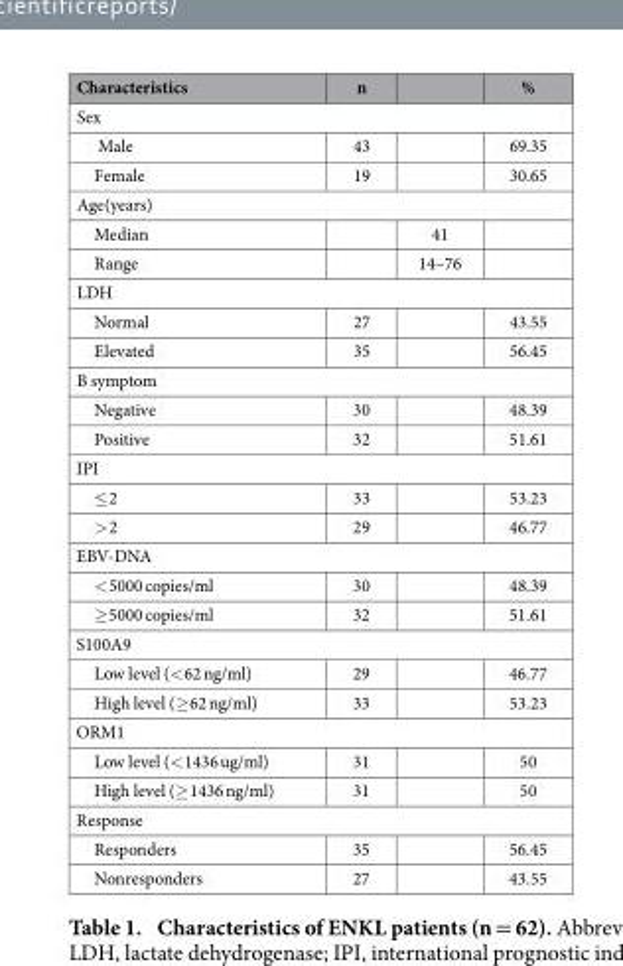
<table><thead><tr><td>Characteristics</td><td>n</td><td></td><td>%</td></tr></thead><tbody><tr><td colspan="4">Sex</td></tr><tr><td>Male</td><td>43</td><td></td><td>69.35</td></tr><tr><td>Female</td><td>19</td><td></td><td>30.65</td></tr><tr><td colspan="4">Age(years)</td></tr><tr><td>Median</td><td></td><td>41</td><td></td></tr><tr><td>Range</td><td></td><td>14–76</td><td></td></tr><tr><td colspan="4">LDH</td></tr><tr><td>Normal</td><td>27</td><td></td><td>43.55</td></tr><tr><td>Elevated</td><td>35</td><td></td><td>56.45</td></tr><tr><td colspan="4">B symptom</td></tr><tr><td>Negative</td><td>30</td><td></td><td>48.39</td></tr><tr><td>Positive</td><td>32</td><td></td><td>51.61</td></tr><tr><td colspan="4">IPI</td></tr><tr><td>≤ 2</td><td>33</td><td></td><td>53.23</td></tr><tr><td>&gt; 2</td><td>29</td><td></td><td>46.77</td></tr><tr><td colspan="4">EBV-DNA</td></tr><tr><td>&lt; 5000 copies/ml</td><td>30</td><td></td><td>48.39</td></tr><tr><td>≥ 5000 copies/ml</td><td>32</td><td></td><td>51.61</td></tr><tr><td colspan="4">S100A9</td></tr><tr><td>Low level (&lt; 62 ng/ml)</td><td>29</td><td></td><td>46.77</td></tr><tr><td>High level (≥ 62 ng/ml)</td><td>33</td><td></td><td>53.23</td></tr><tr><td colspan="4">ORM1</td></tr><tr><td>Low level (&lt; 1436 ug/ml)</td><td>31</td><td></td><td>50</td></tr><tr><td>High level (≥ 1436 ng/ml)</td><td>31</td><td></td><td>50</td></tr><tr><td colspan="4">Response</td></tr><tr><td>Responders</td><td>35</td><td></td><td>56.45</td></tr><tr><td>Nonresponders</td><td>27</td><td></td><td>43.55</td></tr></tbody></table>